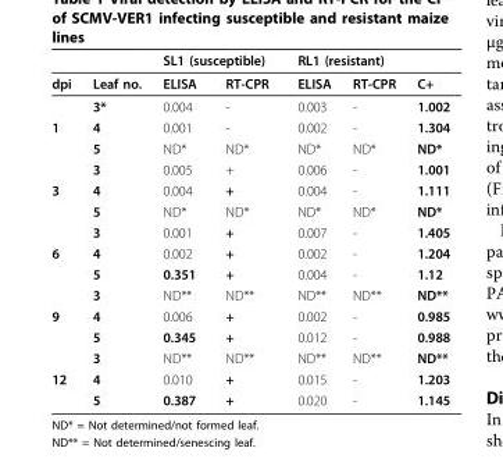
<table><thead><tr><td rowspan="2">dpi</td><td rowspan="2">Leaf no.</td><td colspan="2">SL1 (susceptible)</td><td colspan="2">RL1 (resistant)</td><td rowspan="2">C+</td></tr><tr><td>ELISA</td><td>RT-CPR</td><td>ELISA</td><td>RT-CPR</td></tr></thead><tbody><tr><td></td><td>3*</td><td>0.004</td><td>-</td><td>0.003</td><td>-</td><td>1.002</td></tr><tr><td rowspan="3">1</td><td>4</td><td>0.001</td><td>-</td><td>0.002</td><td>-</td><td>1.304</td></tr><tr><td>5</td><td>ND*</td><td>ND*</td><td>ND*</td><td>ND*</td><td>ND*</td></tr><tr><td>3</td><td>0.005</td><td>+</td><td>0.006</td><td>-</td><td>1.001</td></tr><tr><td rowspan="3">3</td><td>4</td><td>0.004</td><td>+</td><td>0.004</td><td>-</td><td>1.111</td></tr><tr><td>5</td><td>ND*</td><td>ND*</td><td>ND*</td><td>ND*</td><td>ND*</td></tr><tr><td>3</td><td>0.001</td><td>+</td><td>0.007</td><td>-</td><td>1.405</td></tr><tr><td rowspan="3">6</td><td>4</td><td>0.002</td><td>+</td><td>0.002</td><td>-</td><td>1.204</td></tr><tr><td>5</td><td>0.351</td><td>+</td><td>0.004</td><td>-</td><td>1.12</td></tr><tr><td>3</td><td>ND**</td><td>ND**</td><td>ND**</td><td>ND**</td><td>ND**</td></tr><tr><td rowspan="3">9</td><td>4</td><td>0.006</td><td>+</td><td>0.002</td><td>-</td><td>0.985</td></tr><tr><td>5</td><td>0.345</td><td>+</td><td>0.012</td><td>-</td><td>0.988</td></tr><tr><td>3</td><td>ND**</td><td>ND**</td><td>ND**</td><td>ND**</td><td>ND**</td></tr><tr><td rowspan="2">12</td><td>4</td><td>0.010</td><td>+</td><td>0.015</td><td>-</td><td>1.203</td></tr><tr><td>5</td><td>0.387</td><td>+</td><td>0.020</td><td>-</td><td>1.145</td></tr></tbody></table>